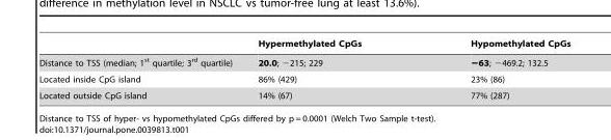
<table><thead><tr><td></td><td>Hypermethylated CpGs</td><td>Hypomethylated CpGs</td></tr></thead><tbody><tr><td>Distance to TSS (median; 1<sup>st</sup> quartile; 3<sup>rd</sup> quartile)</td><td>20.0; −215; 229</td><td>−63; −469.2; 132.5</td></tr><tr><td>Located inside CpG island</td><td>86% (429)</td><td>23% (86)</td></tr><tr><td>Located outside CpG island</td><td>14% (67)</td><td>77% (287)</td></tr></tbody></table>